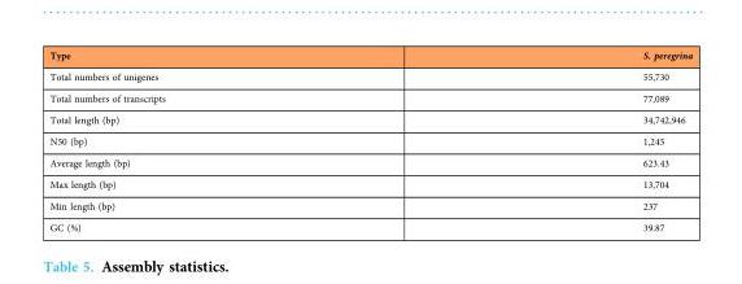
<table><thead><tr><td>Type</td><td>S. peregrina</td></tr></thead><tbody><tr><td>Total numbers of unigenes</td><td>55,730</td></tr><tr><td>Total numbers of transcripts</td><td>77,089</td></tr><tr><td>Total length (bp)</td><td>34,742,946</td></tr><tr><td>N50 (bp)</td><td>1,245</td></tr><tr><td>Average length (bp)</td><td>623.43</td></tr><tr><td>Max length (bp)</td><td>13,704</td></tr><tr><td>Min length (bp)</td><td>237</td></tr><tr><td>GC (%)</td><td>39.87</td></tr></tbody></table>